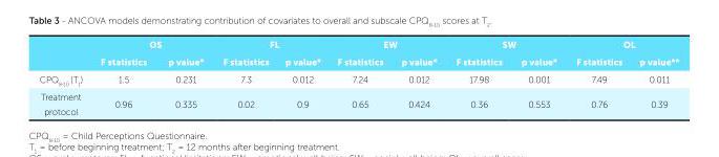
<table><thead><tr><td rowspan="2"></td><td colspan="2">OS</td><td colspan="2">FL</td><td colspan="2">EW</td><td colspan="2">SW</td><td colspan="2">OL</td></tr><tr><td>F statistics</td><td>p value*</td><td>F statistics</td><td>p value*</td><td>F statistics</td><td>p value*</td><td>F statistics</td><td>p value*</td><td>F statistics</td><td>p value**</td></tr></thead><tbody><tr><td>CPQ<sub>8-10</sub> (T<sub>1</sub>)</td><td>1.5</td><td>0.231</td><td>7.3</td><td>0.012</td><td>7.24</td><td>0.012</td><td>17.98</td><td>0.001</td><td>7.49</td><td>0.011</td></tr><tr><td>Treatment protocol</td><td>0.96</td><td>0.335</td><td>0.02</td><td>0.9</td><td>0.65</td><td>0.424</td><td>0.36</td><td>0.553</td><td>0.76</td><td>0.39</td></tr></tbody></table>